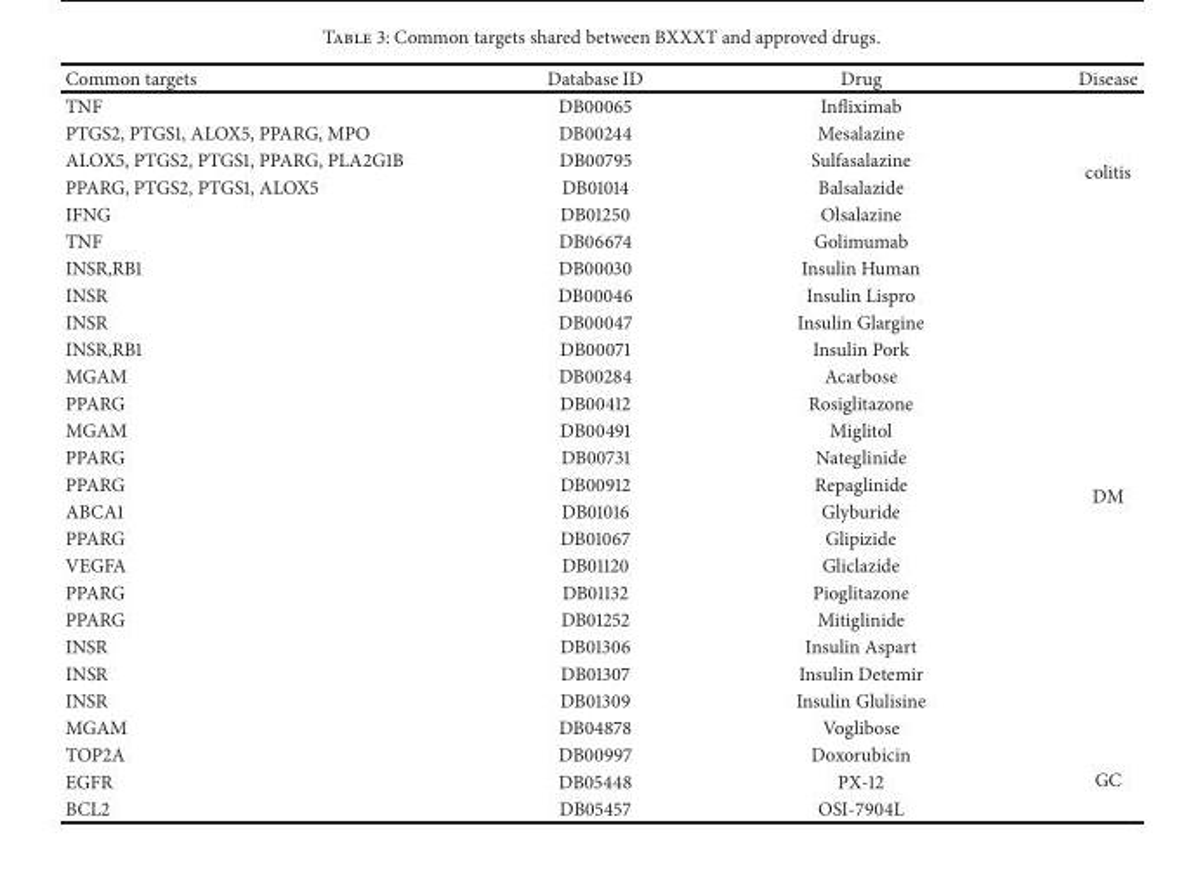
<table><thead><tr><td>Common targets</td><td>Database ID</td><td>Drug</td><td>Disease</td></tr></thead><tbody><tr><td>TNF</td><td>DB00065</td><td>Infliximab</td><td rowspan="6">colitis</td></tr><tr><td>PTGS2, PTGS1, ALOX5, PPARG, MPO</td><td>DB00244</td><td>Mesalazine</td></tr><tr><td>ALOX5, PTGS2, PTGS1, PPARG, PLA2G1B</td><td>DB00795</td><td>Sulfasalazine</td></tr><tr><td>PPARG, PTGS2, PTGS1, ALOX5</td><td>DB01014</td><td>Balsalazide</td></tr><tr><td>IFNG</td><td>DB01250</td><td>Olsalazine</td></tr><tr><td>TNF</td><td>DB06674</td><td>Golimumab</td></tr><tr><td>INSR,RB1</td><td>DB00030</td><td>Insulin Human</td><td rowspan="18">DM</td></tr><tr><td>INSR</td><td>DB00046</td><td>Insulin Lispro</td></tr><tr><td>INSR</td><td>DB00047</td><td>Insulin Glargine</td></tr><tr><td>INSR,RB1</td><td>DB00071</td><td>Insulin Pork</td></tr><tr><td>MGAM</td><td>DB00284</td><td>Acarbose</td></tr><tr><td>PPARG</td><td>DB00412</td><td>Rosiglitazone</td></tr><tr><td>MGAM</td><td>DB00491</td><td>Miglitol</td></tr><tr><td>PPARG</td><td>DB00731</td><td>Nateglinide</td></tr><tr><td>PPARG</td><td>DB00912</td><td>Repaglinide</td></tr><tr><td>ABCA1</td><td>DB01016</td><td>Glyburide</td></tr><tr><td>PPARG</td><td>DB01067</td><td>Glipizide</td></tr><tr><td>VEGFA</td><td>DB01120</td><td>Gliclazide</td></tr><tr><td>PPARG</td><td>DB01132</td><td>Pioglitazone</td></tr><tr><td>PPARG</td><td>DB01252</td><td>Mitiglinide</td></tr><tr><td>INSR</td><td>DB01306</td><td>Insulin Aspart</td></tr><tr><td>INSR</td><td>DB01307</td><td>Insulin Detemir</td></tr><tr><td>INSR</td><td>DB01309</td><td>Insulin Glulisine</td></tr><tr><td>MGAM</td><td>DB04878</td><td>Voglibose</td></tr><tr><td>TOP2A</td><td>DB00997</td><td>Doxorubicin</td><td rowspan="3">GC</td></tr><tr><td>EGFR</td><td>DB05448</td><td>PX-12</td></tr><tr><td>BCL2</td><td>DB05457</td><td>OSI-7904L</td></tr></tbody></table>